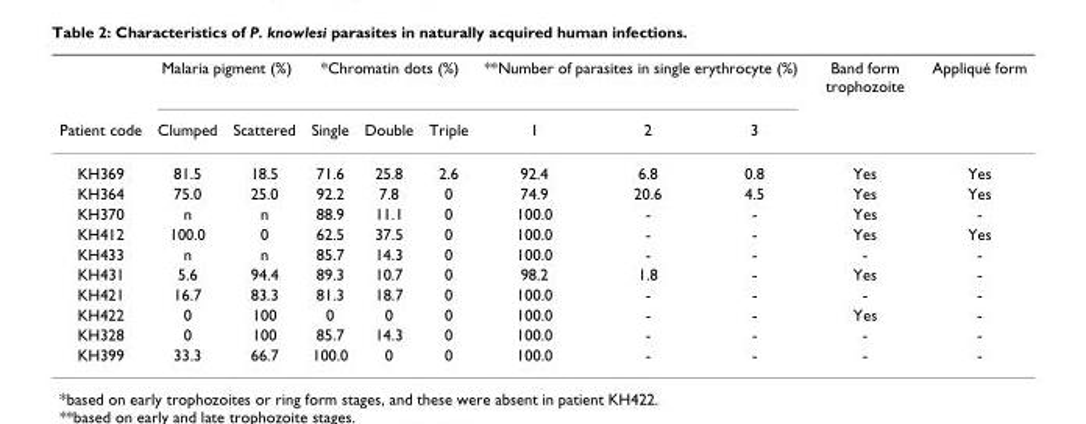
<table><thead><tr><td rowspan="2">Patient code</td><td colspan="2">Malaria pigment (%)</td><td colspan="3">*Chromatin dots (%)</td><td colspan="3">**Number of parasites in single erythrocyte (%)</td><td rowspan="2">Band form trophozoite</td><td rowspan="2">Appliqué form</td></tr><tr><td>Clumped</td><td>Scattered</td><td>Single</td><td>Double</td><td>Triple</td><td>1</td><td>2</td><td>3</td></tr></thead><tbody><tr><td>KH369</td><td>81.5</td><td>18.5</td><td>71.6</td><td>25.8</td><td>2.6</td><td>92.4</td><td>6.8</td><td>0.8</td><td>Yes</td><td>Yes</td></tr><tr><td>KH364</td><td>75.0</td><td>25.0</td><td>92.2</td><td>7.8</td><td>0</td><td>74.9</td><td>20.6</td><td>4.5</td><td>Yes</td><td>Yes</td></tr><tr><td>KH370</td><td>n</td><td>n</td><td>88.9</td><td>11.1</td><td>0</td><td>100.0</td><td>-</td><td>-</td><td>Yes</td><td>-</td></tr><tr><td>KH412</td><td>100.0</td><td>0</td><td>62.5</td><td>37.5</td><td>0</td><td>100.0</td><td>-</td><td>-</td><td>Yes</td><td>Yes</td></tr><tr><td>KH433</td><td>n</td><td>n</td><td>85.7</td><td>14.3</td><td>0</td><td>100.0</td><td>-</td><td>-</td><td>-</td><td>-</td></tr><tr><td>KH431</td><td>5.6</td><td>94.4</td><td>89.3</td><td>10.7</td><td>0</td><td>98.2</td><td>1.8</td><td>-</td><td>Yes</td><td>-</td></tr><tr><td>KH421</td><td>16.7</td><td>83.3</td><td>81.3</td><td>18.7</td><td>0</td><td>100.0</td><td>-</td><td>-</td><td>-</td><td>-</td></tr><tr><td>KH422</td><td>0</td><td>100</td><td>0</td><td>0</td><td>0</td><td>100.0</td><td>-</td><td>-</td><td>Yes</td><td>-</td></tr><tr><td>KH328</td><td>0</td><td>100</td><td>85.7</td><td>14.3</td><td>0</td><td>100.0</td><td>-</td><td>-</td><td>-</td><td>-</td></tr><tr><td>KH399</td><td>33.3</td><td>66.7</td><td>100.0</td><td>0</td><td>0</td><td>100.0</td><td>-</td><td>-</td><td>-</td><td>-</td></tr></tbody></table>